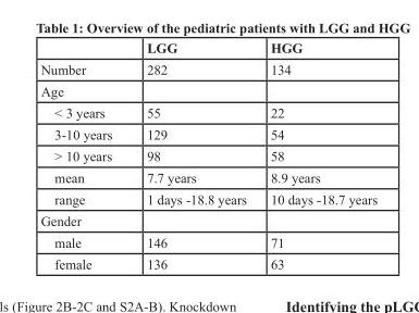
<table><thead><tr><td></td><td>LGG</td><td>HGG</td></tr></thead><tbody><tr><td>Number</td><td>282</td><td>134</td></tr><tr><td colspan="3">Age</td></tr><tr><td>&lt; 3 years</td><td>55</td><td>22</td></tr><tr><td>3-10 years</td><td>129</td><td>54</td></tr><tr><td>&gt; 10 years</td><td>98</td><td>58</td></tr><tr><td>mean</td><td>7.7 years</td><td>8.9 years</td></tr><tr><td>range</td><td>1 days -18.8 years</td><td>10 days -18.7 years</td></tr><tr><td colspan="3">Gender</td></tr><tr><td>male</td><td>146</td><td>71</td></tr><tr><td>female</td><td>136</td><td>63</td></tr></tbody></table>